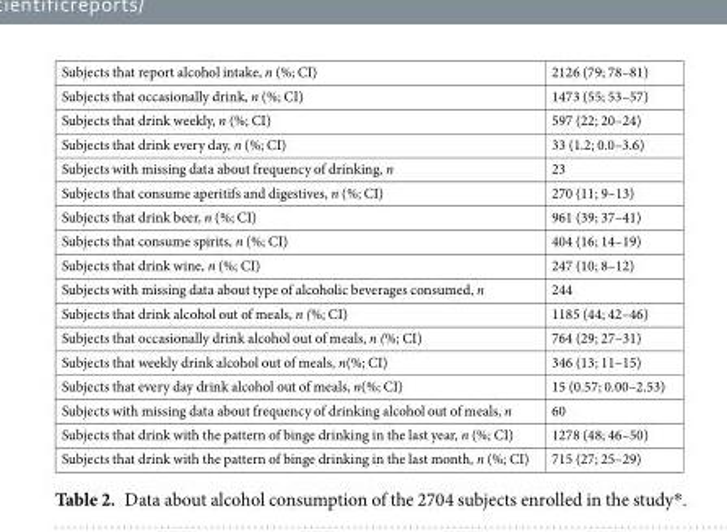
<table><tbody><tr><td>Subjects that report alcohol intake, n (%; CI)</td><td>2126 (79; 78–81)</td></tr><tr><td>Subjects that occasionally drink, n (%; CI)</td><td>1473 (55; 53–57)</td></tr><tr><td>Subjects that drink weekly, n (%; CI)</td><td>597 (22; 20–24)</td></tr><tr><td>Subjects that drink every day, n (%; CI)</td><td>33 (1.2; 0.0–3.6)</td></tr><tr><td>Subjects with missing data about frequency of drinking, n</td><td>23</td></tr><tr><td>Subjects that consume aperitifs and digestives, n (%; CI)</td><td>270 (11; 9–13)</td></tr><tr><td>Subjects that drink beer, n (%; CI)</td><td>961 (39; 37–41)</td></tr><tr><td>Subjects that consume spirits, n (%; CI)</td><td>404 (16; 14–19)</td></tr><tr><td>Subjects that drink wine, n (%; CI)</td><td>247 (10; 8–12)</td></tr><tr><td>Subjects with missing data about type of alcoholic beverages consumed, n</td><td>244</td></tr><tr><td>Subjects that drink alcohol out of meals, n (%; CI)</td><td>1185 (44; 42–46)</td></tr><tr><td>Subjects that occasionally drink alcohol out of meals, n (%; CI)</td><td>764 (29; 27–31)</td></tr><tr><td>Subjects that weekly drink alcohol out of meals, n(%; CI)</td><td>346 (13; 11–15)</td></tr><tr><td>Subjects that every day drink alcohol out of meals, n(%; CI)</td><td>15 (0.57; 0.00–2.53)</td></tr><tr><td>Subjects with missing data about frequency of drinking alcohol out of meals, n</td><td>60</td></tr><tr><td>Subjects that drink with the pattern of binge drinking in the last year, n (%; CI)</td><td>1278 (48; 46–50)</td></tr><tr><td>Subjects that drink with the pattern of binge drinking in the last month, n (%; CI)</td><td>715 (27; 25–29)</td></tr></tbody></table>